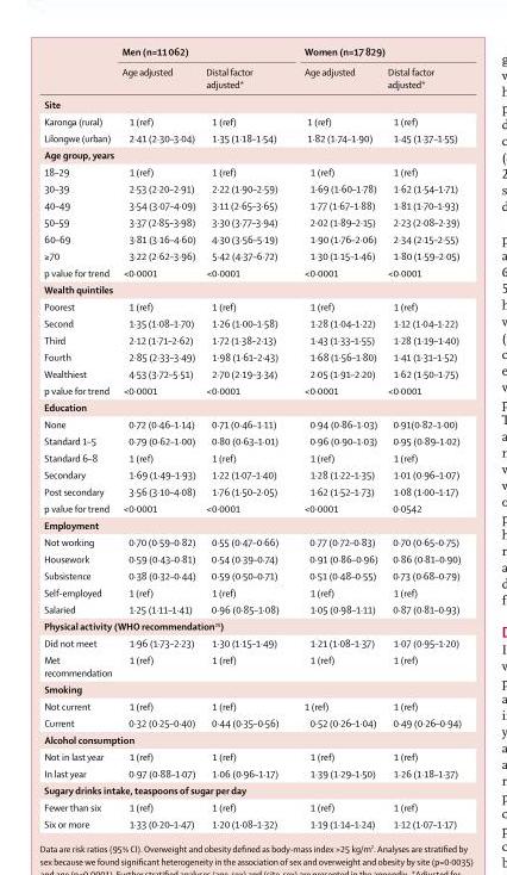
<table><thead><tr><td rowspan="2"></td><td colspan="2">Men (n=11 062)</td><td colspan="2">Women (n=17 829)</td></tr><tr><td>Age adjusted</td><td>Distal factor adjusted*</td><td>Age adjusted</td><td>Distal factor adjusted*</td></tr></thead><tbody><tr><td colspan="5">Site</td></tr><tr><td>Karonga (rural)</td><td>1 (ref)</td><td>1 (ref)</td><td>1 (ref)</td><td>1 (ref)</td></tr><tr><td>Lilongwe (urban)</td><td>2·41 (2·30–3·04)</td><td>1·35 (1·18–1·54)</td><td>1·82 (1·74–1·90)</td><td>1·45 (1·37–1·55)</td></tr><tr><td colspan="5">Age group, years</td></tr><tr><td>18–29</td><td>1 (ref)</td><td>1 (ref)</td><td>1 (ref)</td><td>1 (ref)</td></tr><tr><td>30–39</td><td>2·53 (2·20–2·91)</td><td>2·22 (1·90–2·59)</td><td>1·69 (1·60–1·78)</td><td>1·62 (1·54–1·71)</td></tr><tr><td>40–49</td><td>3·54 (3·07–4·09)</td><td>3·11 (2·65–3·65)</td><td>1·77 (1·67–1·88)</td><td>1·81 (1·70–1·93)</td></tr><tr><td>50–59</td><td>3·37 (2·85–3·98)</td><td>3·30 (3·77–3·94)</td><td>2·02 (1·89–2·15)</td><td>2·23 (2·08–2·39)</td></tr><tr><td>60–69</td><td>3·81 (3·16–4·60)</td><td>4·30 (3·56–5·19)</td><td>1·90 (1·76–2·06)</td><td>2·34 (2·15–2·55)</td></tr><tr><td>≥70</td><td>3·22 (2·62–3·96)</td><td>5·42 (4·37–6·72)</td><td>1·30 (1·15–1·46)</td><td>1·80 (1·59–2·05)</td></tr><tr><td>p value for trend</td><td>&lt;0·0001</td><td>&lt;0·0001</td><td>&lt;0·0001</td><td>&lt;0·0001</td></tr><tr><td colspan="5">Wealth quintiles</td></tr><tr><td>Poorest</td><td>1 (ref)</td><td>1 (ref)</td><td>1 (ref)</td><td>1 (ref)</td></tr><tr><td>Second</td><td>1·35 (1·08–1·70)</td><td>1·26 (1·00–1·58)</td><td>1·28 (1·04–1·22)</td><td>1·12 (1·04–1·22)</td></tr><tr><td>Third</td><td>2·12 (1·71–2·62)</td><td>1·72 (1·38–2·13)</td><td>1·43 (1·33–1·55)</td><td>1·28 (1·19–1·40)</td></tr><tr><td>Fourth</td><td>2·85 (2·33–3·49)</td><td>1·98 (1·61–2·43)</td><td>1·68 (1·56–1·80)</td><td>1·41 (1·31–1·52)</td></tr><tr><td>Wealthiest</td><td>4·53 (3·72–5·51)</td><td>2·70 (2·19–3·34)</td><td>2·05 (1·91–2·20)</td><td>1·62 (1·50–1·75)</td></tr><tr><td>p value for trend</td><td>&lt;0·0001</td><td>&lt;0·0001</td><td>&lt;0·0001</td><td>&lt;0·0001</td></tr><tr><td colspan="5">Education</td></tr><tr><td>None</td><td>0·72 (0·46–1·14)</td><td>0·71 (0·46–1·11)</td><td>0·94 (0·86–1·03)</td><td>0·91(0·82–1·00)</td></tr><tr><td>Standard 1–5</td><td>0·79 (0·62–1·00)</td><td>0·80 (0·63–1·01)</td><td>0·96 (0·90–1·03)</td><td>0·95 (0·89–1·02)</td></tr><tr><td>Standard 6–8</td><td>1 (ref)</td><td>1 (ref)</td><td>1 (ref)</td><td>1 (ref)</td></tr><tr><td>Secondary</td><td>1·69 (1·49–1·93)</td><td>1·22 (1·07–1·40)</td><td>1·28 (1·22–1·35)</td><td>1·01 (0·96–1·07)</td></tr><tr><td>Post secondary</td><td>3·56 (3·10–4·08)</td><td>1·76 (1·50–2·05)</td><td>1·62 (1·52–1·73)</td><td>1·08 (1·00–1·17)</td></tr><tr><td>p value for trend</td><td>&lt;0·0001</td><td>&lt;0·0001</td><td>&lt;0·0001</td><td>0·0542</td></tr><tr><td colspan="5">Employment</td></tr><tr><td>Not working</td><td>0·70 (0·59–0·82)</td><td>0·55 (0·47–0·66)</td><td>0·77 (0·72–0·83)</td><td>0·70 (0·65–0·75)</td></tr><tr><td>Housework</td><td>0·59 (0·43–0·81)</td><td>0·54 (0·39–0·74)</td><td>0·91 (0·86–0·96)</td><td>0·86 (0·81–0·90)</td></tr><tr><td>Subsistence</td><td>0·38 (0·32–0·44)</td><td>0·59 (0·50–0·71)</td><td>0·51 (0·48–0·55)</td><td>0·73 (0·68–0·79)</td></tr><tr><td>Self-employed</td><td>1 (ref)</td><td>1 (ref)</td><td>1 (ref)</td><td>1 (ref)</td></tr><tr><td>Salaried</td><td>1·25 (1·11–1·41)</td><td>0·96 (0·85–1·08)</td><td>1·05 (0·98–1·11)</td><td>0·87 (0·81–0·93)</td></tr><tr><td colspan="5">Physical activity (WHO recommendation<sup>25</sup>)</td></tr><tr><td>Did not meet</td><td>1·96 (1·73–2·23)</td><td>1·30 (1·15–1·49)</td><td>1·21 (1·08–1·37)</td><td>1·07 (0·95–1·20)</td></tr><tr><td>Met recommendation</td><td>1 (ref)</td><td>1 (ref)</td><td>1 (ref)</td><td>1 (ref)</td></tr><tr><td colspan="5">Smoking</td></tr><tr><td>Not current</td><td>1 (ref)</td><td>1 (ref)</td><td>1 (ref)</td><td>1 (ref)</td></tr><tr><td>Current</td><td>0·32 (0·25–0·40)</td><td>0·44 (0·35–0·56)</td><td>0·52 (0·26–1·04)</td><td>0·49 (0·26–0·94)</td></tr><tr><td colspan="5">Alcohol consumption</td></tr><tr><td>Not in last year</td><td>1 (ref)</td><td>1 (ref)</td><td>1 (ref)</td><td>1 (ref)</td></tr><tr><td>In last year</td><td>0·97 (0·88–1·07)</td><td>1·06 (0·96–1·17)</td><td>1·39 (1·29–1·50)</td><td>1·26 (1·18–1·37)</td></tr><tr><td colspan="5">Sugary drinks intake, teaspoons of sugar per day</td></tr><tr><td>Fewer than six</td><td>1 (ref)</td><td>1 (ref)</td><td>1 (ref)</td><td>1 (ref)</td></tr><tr><td>Six or more</td><td>1·33 (0·20–1·47)</td><td>1·20 (1·08–1·32)</td><td>1·19 (1·14–1·24)</td><td>1·12 (1·07–1·17)</td></tr></tbody></table>